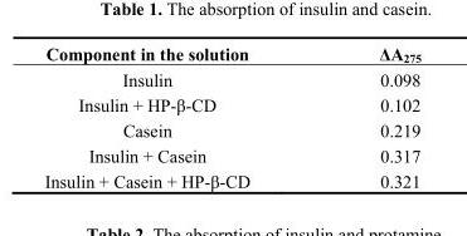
<table><thead><tr><td>Component in the solution</td><td>ΔA<sub>275</sub></td></tr></thead><tbody><tr><td>Insulin</td><td>0.098</td></tr><tr><td>Insulin + HP-β-CD</td><td>0.102</td></tr><tr><td>Casein</td><td>0.219</td></tr><tr><td>Insulin + Casein</td><td>0.317</td></tr><tr><td>Insulin + Casein + HP-β-CD</td><td>0.321</td></tr></tbody></table>